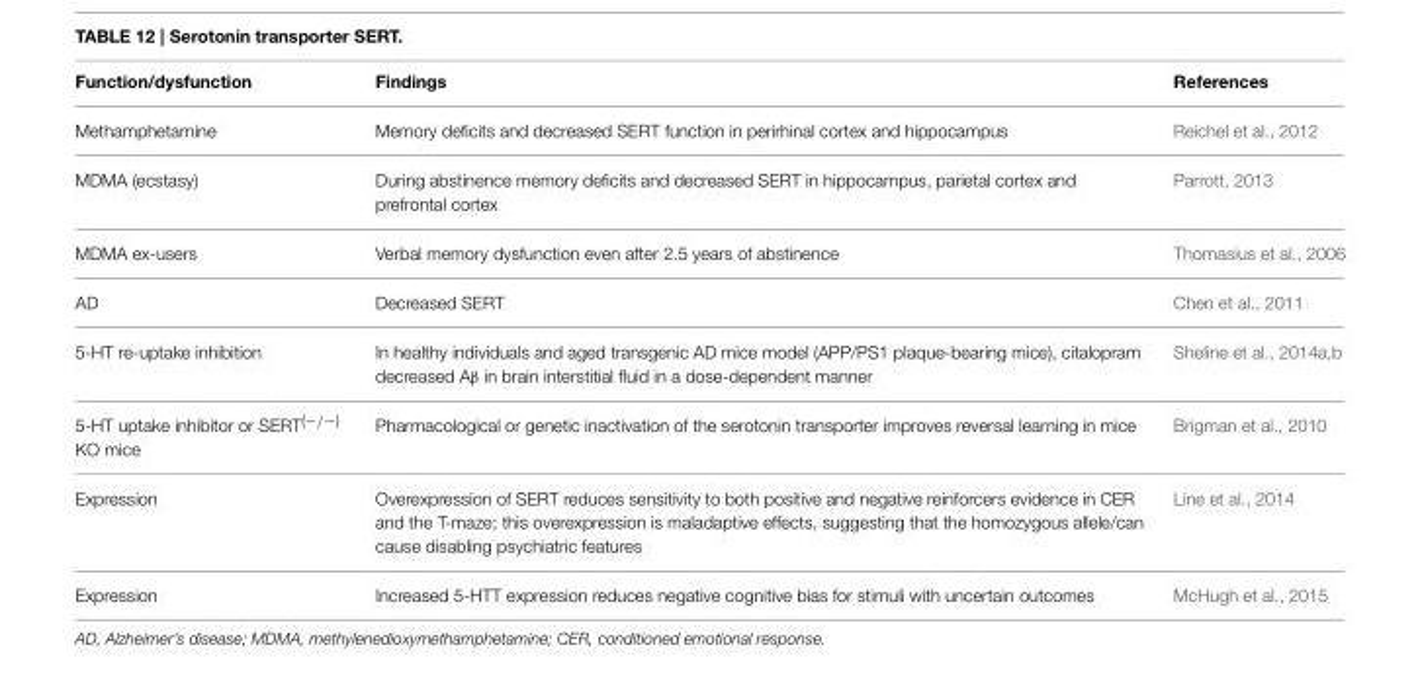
<table><thead><tr><td>Function/dysfunction</td><td>Findings</td><td>References</td></tr></thead><tbody><tr><td>Methamphetamine</td><td>Memory deficits and decreased SERT function in perirhinal cortex and hippocampus</td><td>Reichel et al., 2012</td></tr><tr><td>MDMA (ecstasy)</td><td>During abstinence memory deficits and decreased SERT in hippocampus, parietal cortex and prefrontal cortex</td><td>Parrott, 2013</td></tr><tr><td>MDMA ex-users</td><td>Verbal memory dysfunction even after 2.5 years of abstinence</td><td>Thomasius et al., 2006</td></tr><tr><td>AD</td><td>Decreased SERT</td><td>Chen et al., 2011</td></tr><tr><td>5-HT re-uptake inhibition</td><td>In healthy individuals and aged transgenic AD mice model (APP/PS1 plaque-bearing mice), citalopram decreased Aβ in brain interstitial fluid in a dose-dependent manner</td><td>Sheline et al., 2014a,b</td></tr><tr><td>5-HT uptake inhibitor or SERT<sup>(−/−)</sup> KO mice</td><td>Pharmacological or genetic inactivation of the serotonin transporter improves reversal learning in mice</td><td>Brigman et al., 2010</td></tr><tr><td>Expression</td><td>Overexpression of SERT reduces sensitivity to both positive and negative reinforcers evidence in CER and the T-maze; this overexpression is maladaptive effects, suggesting that the homozygous allele/can cause disabling psychiatric features</td><td>Line et al., 2014</td></tr><tr><td>Expression</td><td>Increased 5-HTT expression reduces negative cognitive bias for stimuli with uncertain outcomes</td><td>McHugh et al., 2015</td></tr></tbody></table>